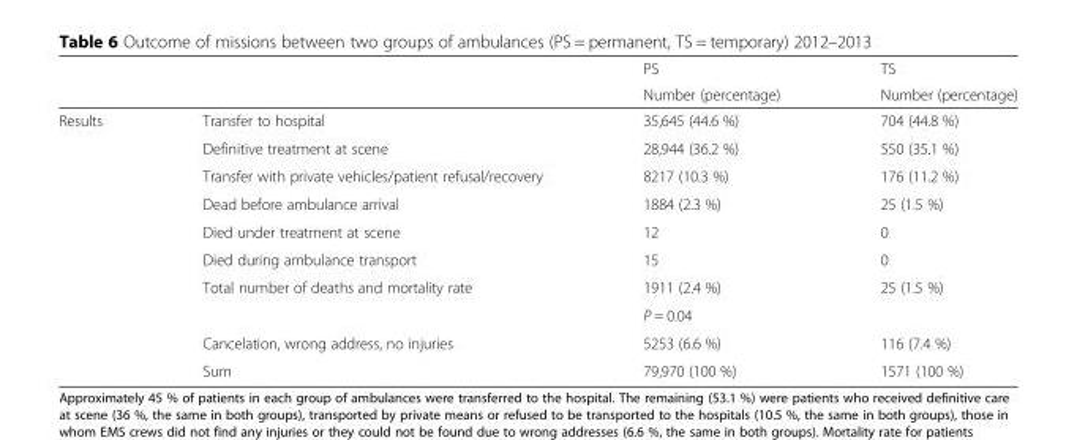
<table><thead><tr><td rowspan="2"></td><td rowspan="2"></td><td rowspan="2">PS Number (percentage)</td><td rowspan="2">TS Number (percentage)</td></tr><tr></tr></thead><tbody><tr><td rowspan="10">Results</td><td>Transfer to hospital</td><td>35,645 (44.6 %)</td><td>704 (44.8 %)</td></tr><tr><td>Definitive treatment at scene</td><td>28,944 (36.2 %)</td><td>550 (35.1 %)</td></tr><tr><td>Transfer with private vehicles/patient refusal/recovery</td><td>8217 (10.3 %)</td><td>176 (11.2 %)</td></tr><tr><td>Dead before ambulance arrival</td><td>1884 (2.3 %)</td><td>25 (1.5 %)</td></tr><tr><td>Died under treatment at scene</td><td>12</td><td>0</td></tr><tr><td>Died during ambulance transport</td><td>15</td><td>0</td></tr><tr><td rowspan="2">Total number of deaths and mortality rate</td><td>1911 (2.4 %)</td><td>25 (1.5 %)</td></tr><tr><td colspan="2">P = 0.04</td></tr><tr><td>Cancelation, wrong address, no injuries</td><td>5253 (6.6 %)</td><td>116 (7.4 %)</td></tr><tr><td>Sum</td><td>79,970 (100 %)</td><td>1571 (100 %)</td></tr></tbody></table>